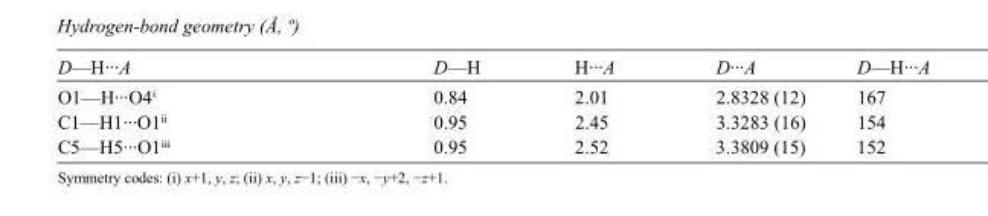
<table><tbody><tr><td>D—H···A</td><td>D—H</td><td>H···A</td><td>D···A</td><td>D—H···A</td></tr><tr><td>O1—H···O4<sup>i</sup></td><td>0.84</td><td>2.01</td><td>2.8328 (12)</td><td>167</td></tr><tr><td>C1—H1···O1<sup>ii</sup></td><td>0.95</td><td>2.45</td><td>3.3283 (16)</td><td>154</td></tr><tr><td>C5—H5···O1<sup>iii</sup></td><td>0.95</td><td>2.52</td><td>3.3809 (15)</td><td>152</td></tr></tbody></table>